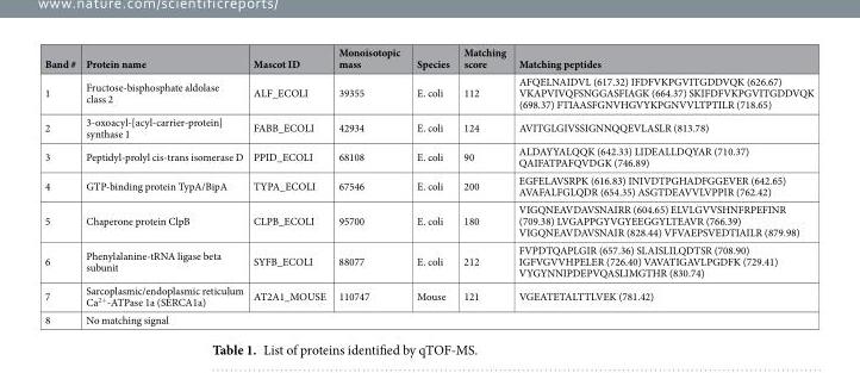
<table><thead><tr><td>Band #</td><td>Protein name</td><td>Mascot ID</td><td>Monoisotopic mass</td><td>Species</td><td>Matching score</td><td>Matching peptides</td></tr></thead><tbody><tr><td>1</td><td>Fructose-bisphosphate aldolase class 2</td><td>ALF_ECOLI</td><td>39355</td><td>E. coli</td><td>112</td><td>AFQELNAIDVL (617.32) IFDFVKPGVITGDDVQK (626.67) VKAPVIVQFSNGGASFIAGK (664.37) SKIFDFVKPGVITGDDVQK (698.37) FTIAASFGNVHGVYKPGNVVLTPTILR (718.65)</td></tr><tr><td>2</td><td>3-oxoacyl-[acyl-carrier-protein] synthase 1</td><td>FABB_ECOLI</td><td>42934</td><td>E. coli</td><td>124</td><td>AVITGLGIVSSIGNNQQEVLASLR (813.78)</td></tr><tr><td>3</td><td>Peptidyl-prolyl cis-trans isomerase D</td><td>PPID_ECOLI</td><td>68108</td><td>E. coli</td><td>90</td><td>ALDAYYALQQK (642.33) LIDEALLDQYAR (710.37) QAIFATPAFQVDGK (746.89)</td></tr><tr><td>4</td><td>GTP-binding protein TypA/BipA</td><td>TYPA_ECOLI</td><td>67546</td><td>E. coli</td><td>200</td><td>EGFELAVSRPK (616.83) INIVDTPGHADFGGEVER (642.65) AVAFALFGLQDR (654.35) ASGTDEAVVLVPPIR (762.42)</td></tr><tr><td>5</td><td>Chaperone protein ClpB</td><td>CLPB_ECOLI</td><td>95700</td><td>E. coli</td><td>180</td><td>VIGQNEAVDAVSNAIRR (604.65) ELVLGVVSHNFRPEFINR (709.38) LVGAPPGYVGYEEGGYLTEAVR (766.39) VIGQNEAVDAVSNAIR (828.44) VFVAEPSVEDTIAILR (879.98)</td></tr><tr><td>6</td><td>Phenylalanine-tRNA ligase beta subunit</td><td>SYFB_ECOLI</td><td>88077</td><td>E. coli</td><td>212</td><td>FVPDTQAPLGIR (657.36) SLAISLILQDTSR (708.90) IGFVGVVHPELER (726.40) VAVATIGAVLPGDFK (729.41) VYGYNNIPDEPVQASLIMGTHR (830.74)</td></tr><tr><td>7</td><td>Sarcoplasmic/endoplasmic reticulum Ca<sup>2+</sup>-ATPase 1a (SERCA1a)</td><td>AT2A1_MOUSE</td><td>110747</td><td>Mouse</td><td>121</td><td>VGEATETALTTLVEK (781.42)</td></tr><tr><td>8</td><td colspan="6">No matching signal</td></tr></tbody></table>